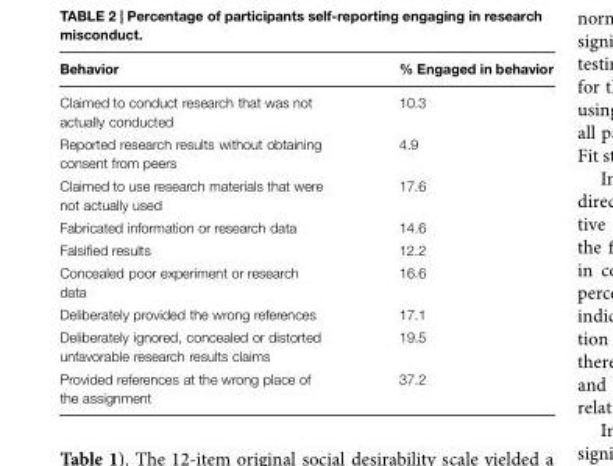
<table><thead><tr><td>Behavior</td><td>% Engaged in behavior</td></tr></thead><tbody><tr><td>Claimed to conduct research that was not actually conducted</td><td>10.3</td></tr><tr><td>Reported research results without obtaining consent from peers</td><td>4.9</td></tr><tr><td>Claimed to use research materials that were not actually used</td><td>17.6</td></tr><tr><td>Fabricated information or research data</td><td>14.6</td></tr><tr><td>Falsified results</td><td>12.2</td></tr><tr><td>Concealed poor experiment or research data</td><td>16.6</td></tr><tr><td>Deliberately provided the wrong references</td><td>17.1</td></tr><tr><td>Deliberately ignored, concealed or distorted unfavorable research results claims</td><td>19.5</td></tr><tr><td>Provided references at the wrong place of the assignment</td><td>37.2</td></tr></tbody></table>